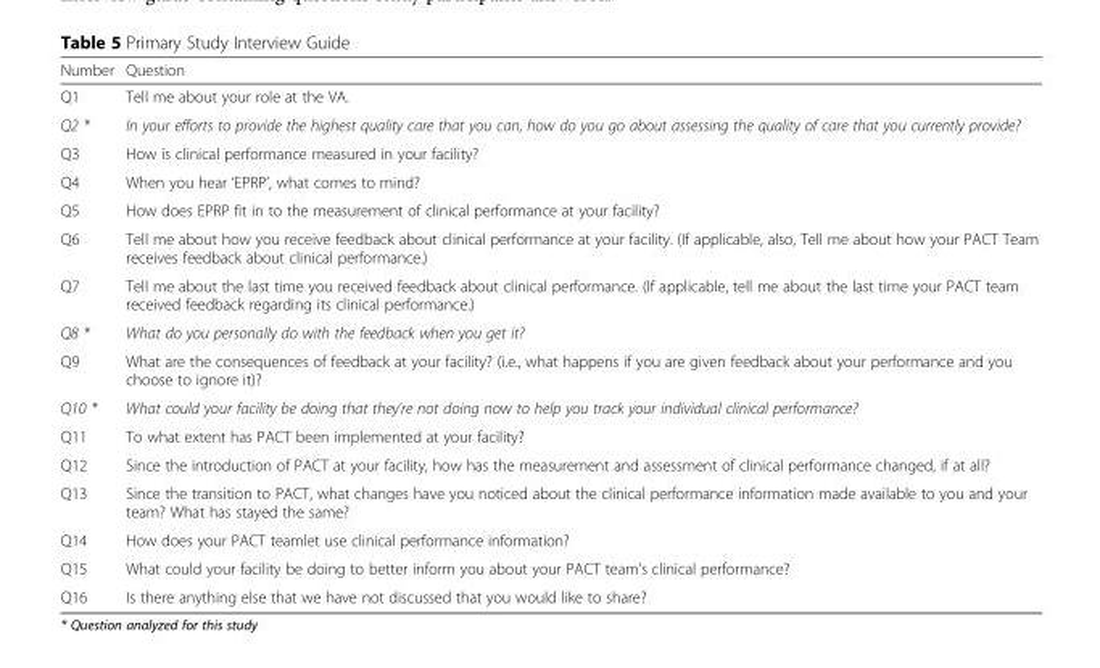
<table><thead><tr><td>Number</td><td>Question</td></tr></thead><tbody><tr><td>Q1</td><td>Tell me about your role at the VA.</td></tr><tr><td>Q2 *</td><td>In your efforts to provide the highest quality care that you can, how do you go about assessing the quality of care that you currently provide?</td></tr><tr><td>Q3</td><td>How is clinical performance measured in your facility?</td></tr><tr><td>Q4</td><td>When you hear ‘EPRP’, what comes to mind?</td></tr><tr><td>Q5</td><td>How does EPRP fit in to the measurement of clinical performance at your facility?</td></tr><tr><td>Q6</td><td>Tell me about how you receive feedback about clinical performance at your facility. (If applicable, also, Tell me about how your PACT Team receives feedback about clinical performance.)</td></tr><tr><td>Q7</td><td>Tell me about the last time you received feedback about clinical performance. (If applicable, tell me about the last time your PACT team received feedback regarding its clinical performance.)</td></tr><tr><td>Q8 *</td><td>What do you personally do with the feedback when you get it?</td></tr><tr><td>Q9</td><td>What are the consequences of feedback at your facility? (i.e., what happens if you are given feedback about your performance and you choose to ignore it)?</td></tr><tr><td>Q10 *</td><td>What could your facility be doing that they’re not doing now to help you track your individual clinical performance?</td></tr><tr><td>Q11</td><td>To what extent has PACT been implemented at your facility?</td></tr><tr><td>Q12</td><td>Since the introduction of PACT at your facility, how has the measurement and assessment of clinical performance changed, if at all?</td></tr><tr><td>Q13</td><td>Since the transition to PACT, what changes have you noticed about the clinical performance information made available to you and your team? What has stayed the same?</td></tr><tr><td>Q14</td><td>How does your PACT teamlet use clinical performance information?</td></tr><tr><td>Q15</td><td>What could your facility be doing to better inform you about your PACT team&#x27;s clinical performance?</td></tr><tr><td>Q16</td><td>Is there anything else that we have not discussed that you would like to share?</td></tr></tbody></table>